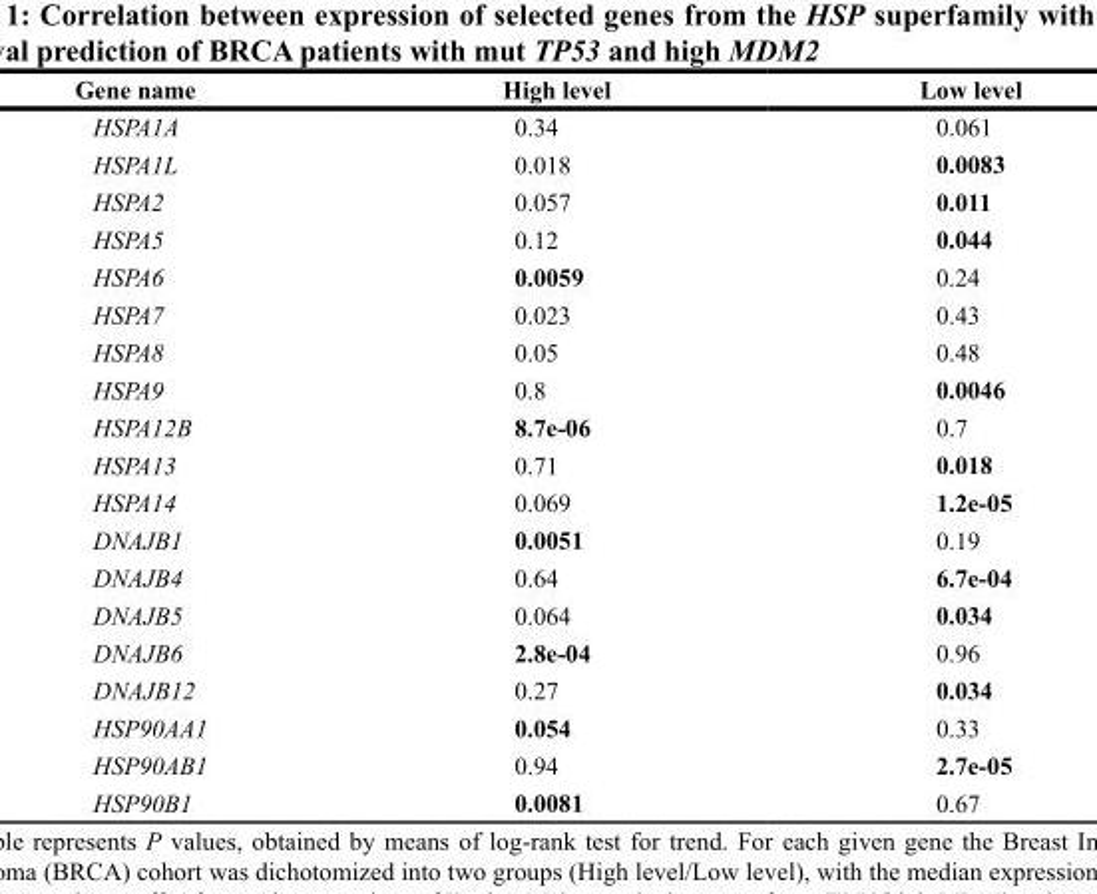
<table><thead><tr><td>Gene name</td><td>High level</td><td>Low level</td></tr></thead><tbody><tr><td>HSPA1A</td><td>0.34</td><td>0.061</td></tr><tr><td>HSPA1L</td><td>0.018</td><td>0.0083</td></tr><tr><td>HSPA2</td><td>0.057</td><td>0.011</td></tr><tr><td>HSPA5</td><td>0.12</td><td>0.044</td></tr><tr><td>HSPA6</td><td>0.0059</td><td>0.24</td></tr><tr><td>HSPA7</td><td>0.023</td><td>0.43</td></tr><tr><td>HSPA8</td><td>0.05</td><td>0.48</td></tr><tr><td>HSPA9</td><td>0.8</td><td>0.0046</td></tr><tr><td>HSPA12B</td><td>8.7e-06</td><td>0.7</td></tr><tr><td>HSPA13</td><td>0.71</td><td>0.018</td></tr><tr><td>HSPA14</td><td>0.069</td><td>1.2e-05</td></tr><tr><td>DNAJB1</td><td>0.0051</td><td>0.19</td></tr><tr><td>DNAJB4</td><td>0.64</td><td>6.7e-04</td></tr><tr><td>DNAJB5</td><td>0.064</td><td>0.034</td></tr><tr><td>DNAJB6</td><td>2.8e-04</td><td>0.96</td></tr><tr><td>DNAJB12</td><td>0.27</td><td>0.034</td></tr><tr><td>HSP90AA1</td><td>0.054</td><td>0.33</td></tr><tr><td>HSP90AB1</td><td>0.94</td><td>2.7e-05</td></tr><tr><td>HSP90B1</td><td>0.0081</td><td>0.67</td></tr></tbody></table>